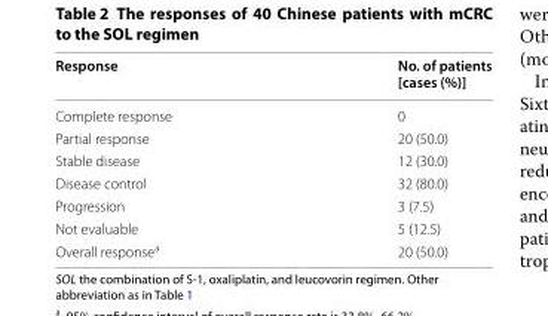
<table><thead><tr><td>Response</td><td>No. of patients [cases (%)]</td></tr></thead><tbody><tr><td>Complete response</td><td>0</td></tr><tr><td>Partial response</td><td>20 (50.0)</td></tr><tr><td>Stable disease</td><td>12 (30.0)</td></tr><tr><td>Disease control</td><td>32 (80.0)</td></tr><tr><td>Progression</td><td>3 (7.5)</td></tr><tr><td>Not evaluable</td><td>5 (12.5)</td></tr><tr><td>Overall response<sup>a</sup></td><td>20 (50.0)</td></tr></tbody></table>